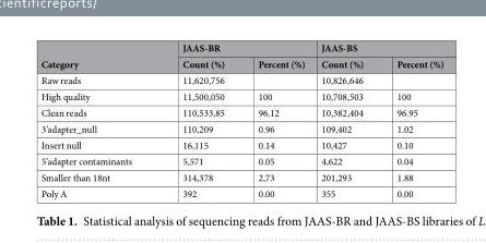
<table><thead><tr><td rowspan="2">Category</td><td colspan="2">JAAS-BR</td><td colspan="2">JAAS-BS</td></tr><tr><td>Count (%)</td><td>Percent (%)</td><td>Count (%)</td><td>Percent (%)</td></tr></thead><tbody><tr><td>Raw reads</td><td>11,620,756</td><td></td><td>10,826,646</td><td></td></tr><tr><td>High quality</td><td>11,500,050</td><td>100</td><td>10,708,503</td><td>100</td></tr><tr><td>Clean reads</td><td>110,533,85</td><td>96.12</td><td>10,382,404</td><td>96.95</td></tr><tr><td>3’adapter_null</td><td>110,209</td><td>0.96</td><td>109,402</td><td>1.02</td></tr><tr><td>Insert null</td><td>16,115</td><td>0.14</td><td>10,427</td><td>0.10</td></tr><tr><td>5’adapter contaminants</td><td>5,571</td><td>0.05</td><td>4,622</td><td>0.04</td></tr><tr><td>Smaller than 18nt</td><td>314,378</td><td>2,73</td><td>201,293</td><td>1.88</td></tr><tr><td>Poly A</td><td>392</td><td>0.00</td><td>355</td><td>0.00</td></tr></tbody></table>